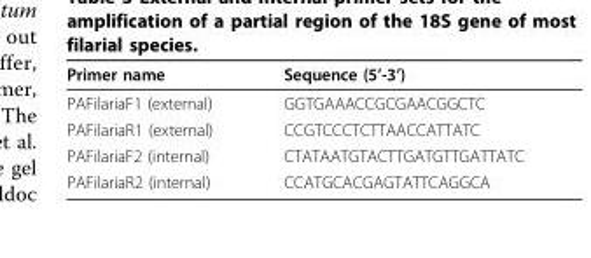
<table><thead><tr><td>Primer name</td><td>Sequence (5’-3’)</td></tr></thead><tbody><tr><td>PAFilariaF1 (external)</td><td>GGTGAAACCGCGAACGGCTC</td></tr><tr><td>PAFilariaR1 (external)</td><td>CCGTCCCTCTTAACCATTATC</td></tr><tr><td>PAFilariaF2 (internal)</td><td>CTATAATGTACTTGATGTTGATTATC</td></tr><tr><td>PAFilariaR2 (internal)</td><td>CCATGCACGAGTATTCAGGCA</td></tr></tbody></table>